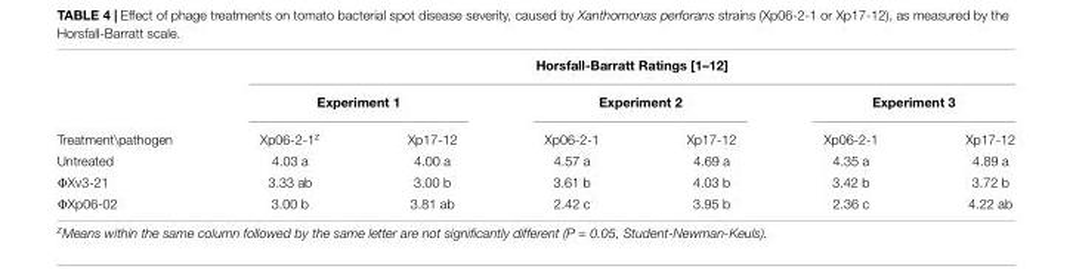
<table><thead><tr><td rowspan="3">Treatment\pathogen</td><td colspan="6">Horsfall-Barratt Ratings [1–12]</td></tr><tr><td colspan="2">Experiment 1</td><td colspan="2">Experiment 2</td><td colspan="2">Experiment 3</td></tr><tr><td>Xp06-2-1<sup>z</sup></td><td>Xp17-12</td><td>Xp06-2-1</td><td>Xp17-12</td><td>Xp06-2-1</td><td>Xp17-12</td></tr></thead><tbody><tr><td>Untreated</td><td>4.03 a</td><td>4.00 a</td><td>4.57 a</td><td>4.69 a</td><td>4.35 a</td><td>4.89 a</td></tr><tr><td>ΦXv3-21</td><td>3.33 ab</td><td>3.00 b</td><td>3.61 b</td><td>4.03 b</td><td>3.42 b</td><td>3.72 b</td></tr><tr><td>ΦXp06-02</td><td>3.00 b</td><td>3.81 ab</td><td>2.42 c</td><td>3.95 b</td><td>2.36 c</td><td>4.22 ab</td></tr></tbody></table>